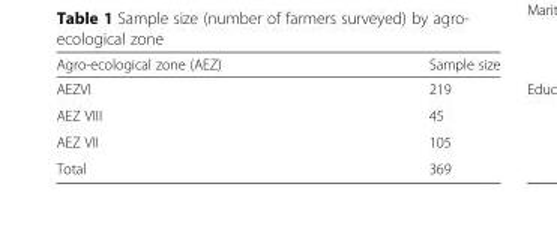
<table><thead><tr><td>Agro-ecological zone (AEZ)</td><td>Sample size</td></tr></thead><tbody><tr><td>AEZVI</td><td>219</td></tr><tr><td>AEZ VIII</td><td>45</td></tr><tr><td>AEZ VII</td><td>105</td></tr><tr><td>Total</td><td>369</td></tr></tbody></table>